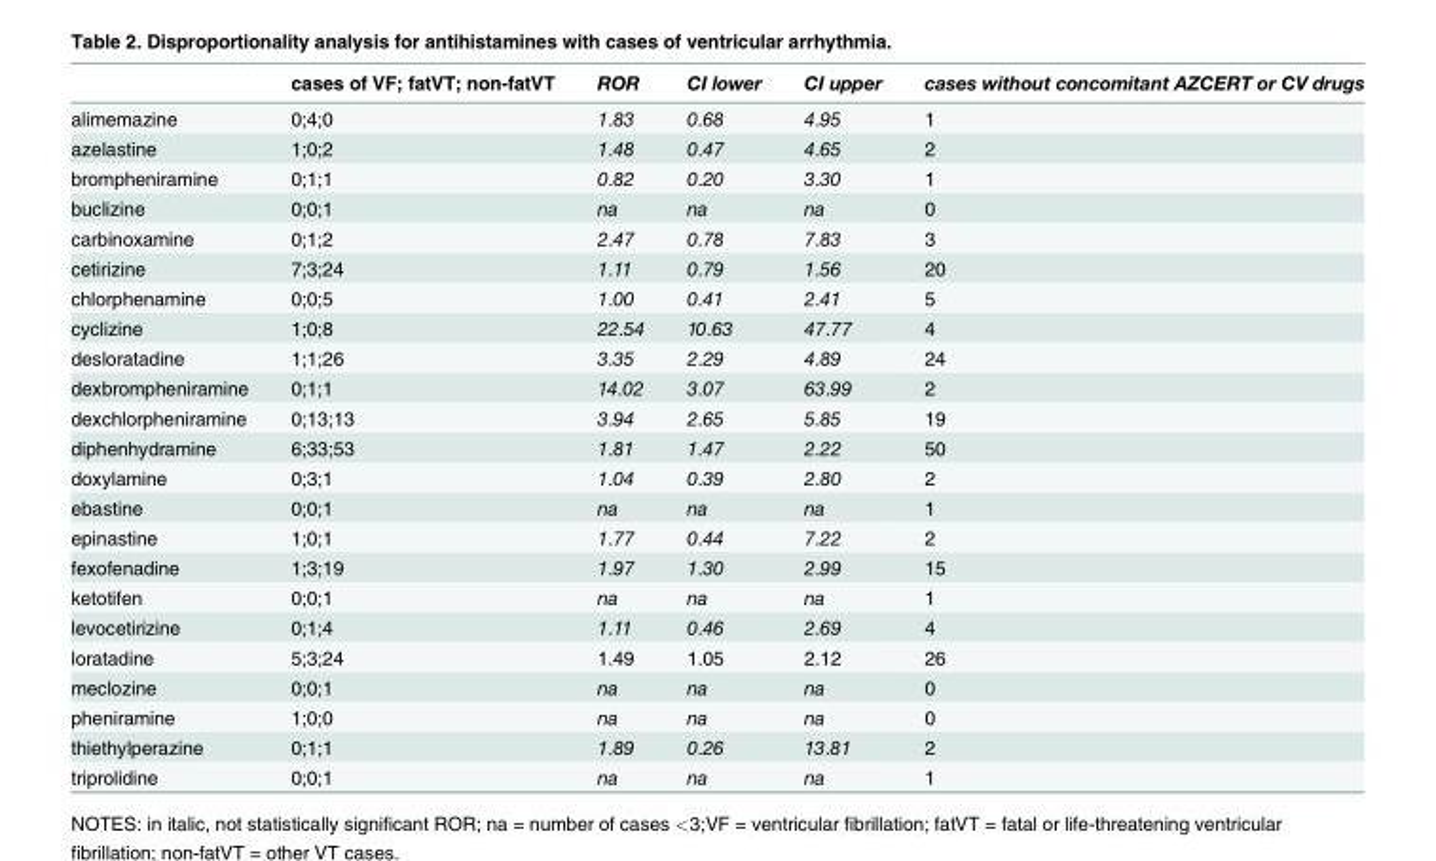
<table><thead><tr><td></td><td>cases of VF; fatVT; non-fatVT</td><td>ROR</td><td>CI lower</td><td>CI upper</td><td>cases without concomitant AZCERT or CV drugs</td></tr></thead><tbody><tr><td>alimemazine</td><td>0;4;0</td><td>1.83</td><td>0.68</td><td>4.95</td><td>1</td></tr><tr><td>azelastine</td><td>1;0;2</td><td>1.48</td><td>0.47</td><td>4.65</td><td>2</td></tr><tr><td>brompheniramine</td><td>0;1;1</td><td>0.82</td><td>0.20</td><td>3.30</td><td>1</td></tr><tr><td>buclizine</td><td>0;0;1</td><td>na</td><td>na</td><td>na</td><td>0</td></tr><tr><td>carbinoxamine</td><td>0;1;2</td><td>2.47</td><td>0.78</td><td>7.83</td><td>3</td></tr><tr><td>cetirizine</td><td>7;3;24</td><td>1.11</td><td>0.79</td><td>1.56</td><td>20</td></tr><tr><td>chlorphenamine</td><td>0;0;5</td><td>1.00</td><td>0.41</td><td>2.41</td><td>5</td></tr><tr><td>cyclizine</td><td>1;0;8</td><td>22.54</td><td>10.63</td><td>47.77</td><td>4</td></tr><tr><td>desloratadine</td><td>1;1;26</td><td>3.35</td><td>2.29</td><td>4.89</td><td>24</td></tr><tr><td>dexbrompheniramine</td><td>0;1;1</td><td>14.02</td><td>3.07</td><td>63.99</td><td>2</td></tr><tr><td>dexchlorpheniramine</td><td>0;13;13</td><td>3.94</td><td>2.65</td><td>5.85</td><td>19</td></tr><tr><td>diphenhydramine</td><td>6;33;53</td><td>1.81</td><td>1.47</td><td>2.22</td><td>50</td></tr><tr><td>doxylamine</td><td>0;3;1</td><td>1.04</td><td>0.39</td><td>2.80</td><td>2</td></tr><tr><td>ebastine</td><td>0;0;1</td><td>na</td><td>na</td><td>na</td><td>1</td></tr><tr><td>epinastine</td><td>1;0;1</td><td>1.77</td><td>0.44</td><td>7.22</td><td>2</td></tr><tr><td>fexofenadine</td><td>1;3;19</td><td>1.97</td><td>1.30</td><td>2.99</td><td>15</td></tr><tr><td>ketotifen</td><td>0;0;1</td><td>na</td><td>na</td><td>na</td><td>1</td></tr><tr><td>levocetirizine</td><td>0;1;4</td><td>1.11</td><td>0.46</td><td>2.69</td><td>4</td></tr><tr><td>loratadine</td><td>5;3;24</td><td>1.49</td><td>1.05</td><td>2.12</td><td>26</td></tr><tr><td>meclozine</td><td>0;0;1</td><td>na</td><td>na</td><td>na</td><td>0</td></tr><tr><td>pheniramine</td><td>1;0;0</td><td>na</td><td>na</td><td>na</td><td>0</td></tr><tr><td>thiethylperazine</td><td>0;1;1</td><td>1.89</td><td>0.26</td><td>13.81</td><td>2</td></tr><tr><td>triprolidine</td><td>0;0;1</td><td>na</td><td>na</td><td>na</td><td>1</td></tr></tbody></table>